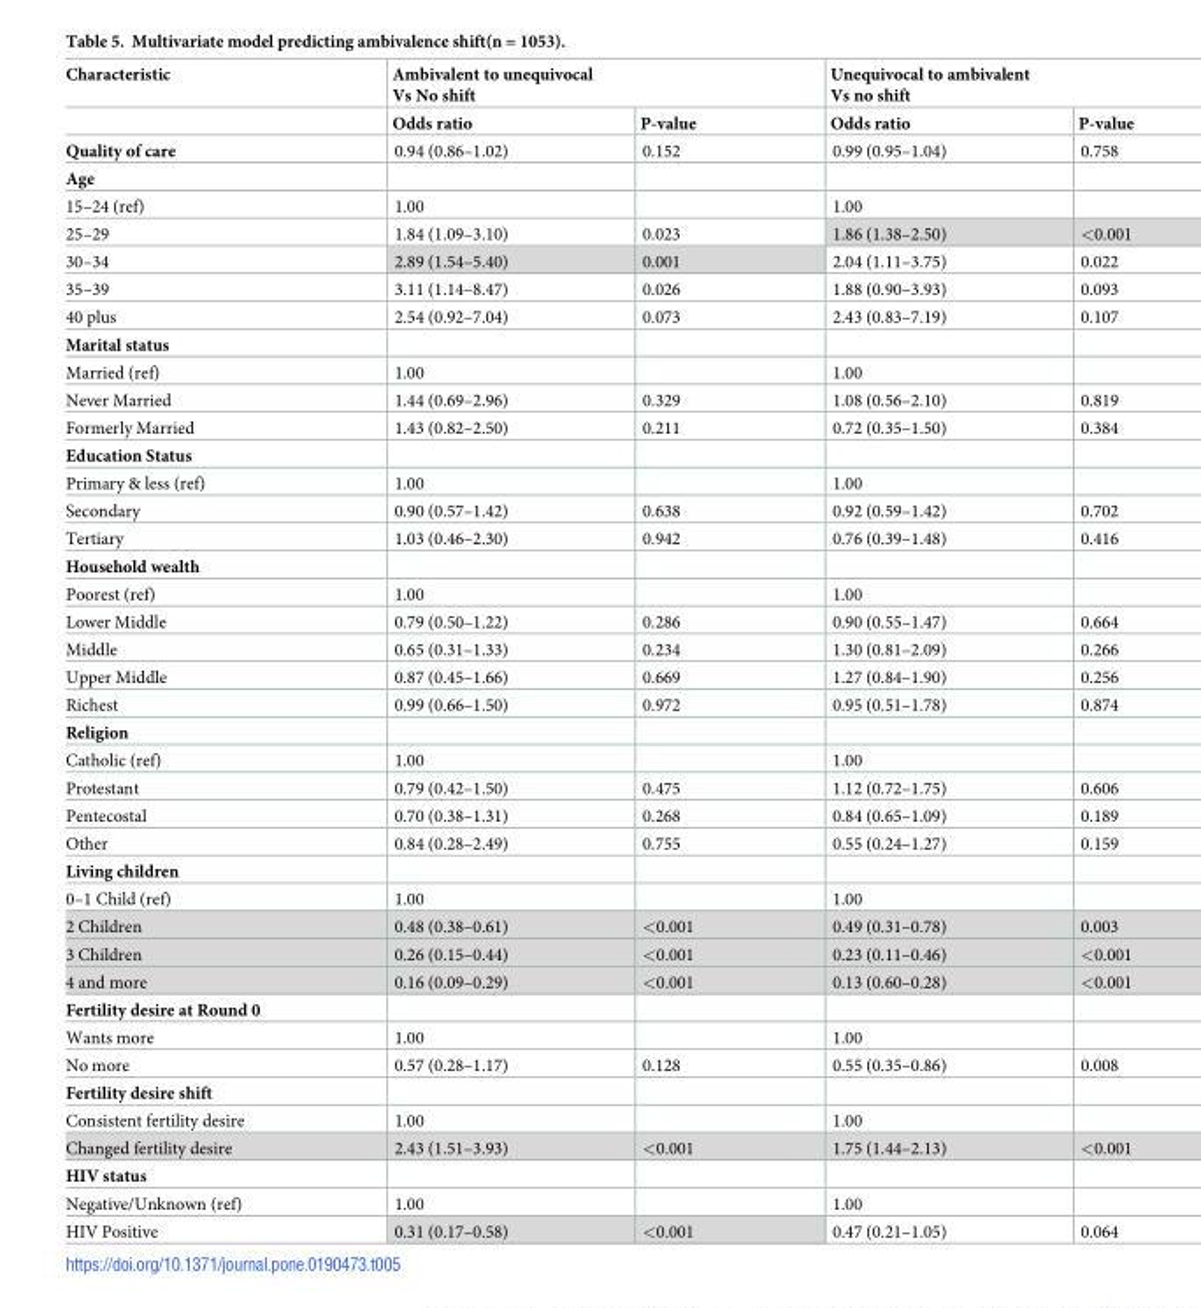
<table><thead><tr><td rowspan="2">Characteristic</td><td colspan="2">Ambivalent to unequivocal Vs No shift</td><td colspan="2">Unequivocal to ambivalent Vs no shift</td></tr><tr><td>Odds ratio</td><td>P-value</td><td>Odds ratio</td><td>P-value</td></tr></thead><tbody><tr><td>Quality of care</td><td>0.94 (0.86–1.02)</td><td>0.152</td><td>0.99 (0.95–1.04)</td><td>0.758</td></tr><tr><td colspan="5">Age</td></tr><tr><td>15–24 (ref)</td><td>1.00</td><td></td><td>1.00</td><td></td></tr><tr><td>25–29</td><td>1.84 (1.09–3.10)</td><td>0.023</td><td>1.86 (1.38–2.50)</td><td>&lt;0.001</td></tr><tr><td>30–34</td><td>2.89 (1.54–5.40)</td><td>0.001</td><td>2.04 (1.11–3.75)</td><td>0.022</td></tr><tr><td>35–39</td><td>3.11 (1.14–8.47)</td><td>0.026</td><td>1.88 (0.90–3.93)</td><td>0.093</td></tr><tr><td>40 plus</td><td>2.54 (0.92–7.04)</td><td>0.073</td><td>2.43 (0.83–7.19)</td><td>0.107</td></tr><tr><td colspan="5">Marital status</td></tr><tr><td>Married (ref)</td><td>1.00</td><td></td><td>1.00</td><td></td></tr><tr><td>Never Married</td><td>1.44 (0.69–2.96)</td><td>0.329</td><td>1.08 (0.56–2.10)</td><td>0.819</td></tr><tr><td>Formerly Married</td><td>1.43 (0.82–2.50)</td><td>0.211</td><td>0.72 (0.35–1.50)</td><td>0.384</td></tr><tr><td colspan="5">Education Status</td></tr><tr><td>Primary &amp; less (ref)</td><td>1.00</td><td></td><td>1.00</td><td></td></tr><tr><td>Secondary</td><td>0.90 (0.57–1.42)</td><td>0.638</td><td>0.92 (0.59–1.42)</td><td>0.702</td></tr><tr><td>Tertiary</td><td>1.03 (0.46–2.30)</td><td>0.942</td><td>0.76 (0.39–1.48)</td><td>0.416</td></tr><tr><td colspan="5">Household wealth</td></tr><tr><td>Poorest (ref)</td><td>1.00</td><td></td><td>1.00</td><td></td></tr><tr><td>Lower Middle</td><td>0.79 (0.50–1.22)</td><td>0.286</td><td>0.90 (0.55–1.47)</td><td>0.664</td></tr><tr><td>Middle</td><td>0.65 (0.31–1.33)</td><td>0.234</td><td>1.30 (0.81–2.09)</td><td>0.266</td></tr><tr><td>Upper Middle</td><td>0.87 (0.45–1.66)</td><td>0.669</td><td>1.27 (0.84–1.90)</td><td>0.256</td></tr><tr><td>Richest</td><td>0.99 (0.66–1.50)</td><td>0.972</td><td>0.95 (0.51–1.78)</td><td>0.874</td></tr><tr><td colspan="5">Religion</td></tr><tr><td>Catholic (ref)</td><td>1.00</td><td></td><td>1.00</td><td></td></tr><tr><td>Protestant</td><td>0.79 (0.42–1.50)</td><td>0.475</td><td>1.12 (0.72–1.75)</td><td>0.606</td></tr><tr><td>Pentecostal</td><td>0.70 (0.38–1.31)</td><td>0.268</td><td>0.84 (0.65–1.09)</td><td>0.189</td></tr><tr><td>Other</td><td>0.84 (0.28–2.49)</td><td>0.755</td><td>0.55 (0.24–1.27)</td><td>0.159</td></tr><tr><td colspan="5">Living children</td></tr><tr><td>0–1 Child (ref)</td><td>1.00</td><td></td><td>1.00</td><td></td></tr><tr><td>2 Children</td><td>0.48 (0.38–0.61)</td><td>&lt;0.001</td><td>0.49 (0.31–0.78)</td><td>0.003</td></tr><tr><td>3 Children</td><td>0.26 (0.15–0.44)</td><td>&lt;0.001</td><td>0.23 (0.11–0.46)</td><td>&lt;0.001</td></tr><tr><td>4 and more</td><td>0.16 (0.09–0.29)</td><td>&lt;0.001</td><td>0.13 (0.60–0.28)</td><td>&lt;0.001</td></tr><tr><td colspan="5">Fertility desire at Round 0</td></tr><tr><td>Wants more</td><td>1.00</td><td></td><td>1.00</td><td></td></tr><tr><td>No more</td><td>0.57 (0.28–1.17)</td><td>0.128</td><td>0.55 (0.35–0.86)</td><td>0.008</td></tr><tr><td colspan="5">Fertility desire shift</td></tr><tr><td>Consistent fertility desire</td><td>1.00</td><td></td><td>1.00</td><td></td></tr><tr><td>Changed fertility desire</td><td>2.43 (1.51–3.93)</td><td>&lt;0.001</td><td>1.75 (1.44–2.13)</td><td>&lt;0.001</td></tr><tr><td colspan="5">HIV status</td></tr><tr><td>Negative/Unknown (ref)</td><td>1.00</td><td></td><td>1.00</td><td></td></tr><tr><td>HIV Positive</td><td>0.31 (0.17–0.58)</td><td>&lt;0.001</td><td>0.47 (0.21–1.05)</td><td>0.064</td></tr></tbody></table>